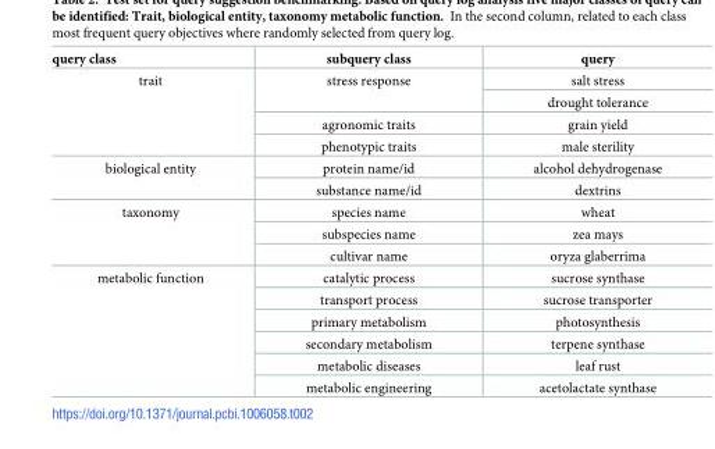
<table><thead><tr><td>query class</td><td>subquery class</td><td>query</td></tr></thead><tbody><tr><td rowspan="4">trait</td><td rowspan="2">stress response</td><td>salt stress</td></tr><tr><td>drought tolerance</td></tr><tr><td>agronomic traits</td><td>grain yield</td></tr><tr><td>phenotypic traits</td><td>male sterility</td></tr><tr><td rowspan="2">biological entity</td><td>protein name/id</td><td>alcohol dehydrogenase</td></tr><tr><td>substance name/id</td><td>dextrins</td></tr><tr><td rowspan="3">taxonomy</td><td>species name</td><td>wheat</td></tr><tr><td>subspecies name</td><td>zea mays</td></tr><tr><td>cultivar name</td><td>oryza glaberrima</td></tr><tr><td rowspan="6">metabolic function</td><td>catalytic process</td><td>sucrose synthase</td></tr><tr><td>transport process</td><td>sucrose transporter</td></tr><tr><td>primary metabolism</td><td>photosynthesis</td></tr><tr><td>secondary metabolism</td><td>terpene synthase</td></tr><tr><td>metabolic diseases</td><td>leaf rust</td></tr><tr><td>metabolic engineering</td><td>acetolactate synthase</td></tr></tbody></table>